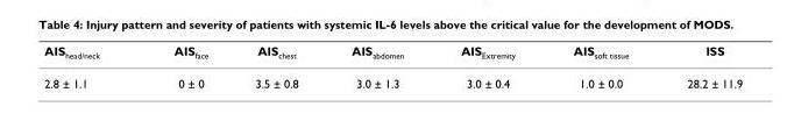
<table><thead><tr><td>AIS<sub>head/neck</sub></td><td>AIS<sub>face</sub></td><td>AIS<sub>chest</sub></td><td>AIS<sub>abdomen</sub></td><td>AIS<sub>Extremity</sub></td><td>AIS<sub>soft tissue</sub></td><td>ISS</td></tr></thead><tbody><tr><td>2.8 ± 1.1</td><td>0 ± 0</td><td>3.5 ± 0.8</td><td>3.0 ± 1.3</td><td>3.0 ± 0.4</td><td>1.0 ± 0.0</td><td>28.2 ± 11.9</td></tr></tbody></table>